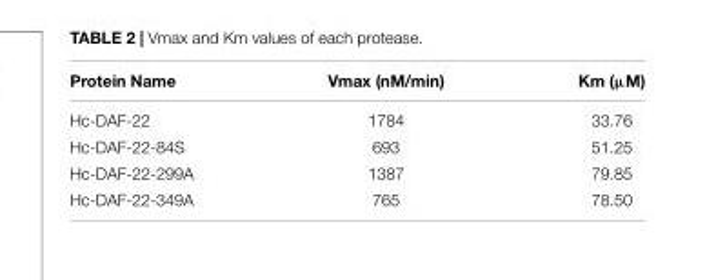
<table><thead><tr><td>Protein Name</td><td>Vmax (nM/min)</td><td>Km (µM)</td></tr></thead><tbody><tr><td>Hc-DAF-22</td><td>1784</td><td>33.76</td></tr><tr><td>Hc-DAF-22-84S</td><td>693</td><td>51.25</td></tr><tr><td>Hc-DAF-22-299A</td><td>1387</td><td>79.85</td></tr><tr><td>Hc-DAF-22-349A</td><td>765</td><td>78.50</td></tr></tbody></table>